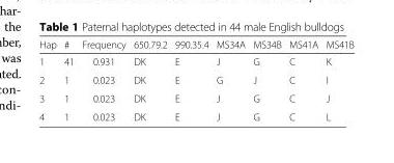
<table><thead><tr><td>Hap</td><td>#</td><td>Frequency</td><td>650.79.2</td><td>990.35.4</td><td>MS34A</td><td>MS34B</td><td>MS41A</td><td>MS41B</td></tr></thead><tbody><tr><td>1</td><td>41</td><td>0.931</td><td>DK</td><td>E</td><td>J</td><td>G</td><td>C</td><td>K</td></tr><tr><td>2</td><td>1</td><td>0.023</td><td>DK</td><td>E</td><td>G</td><td>J</td><td>C</td><td>I</td></tr><tr><td>3</td><td>1</td><td>0.023</td><td>DK</td><td>E</td><td>J</td><td>G</td><td>C</td><td>J</td></tr><tr><td>4</td><td>1</td><td>0.023</td><td>DK</td><td>E</td><td>J</td><td>G</td><td>C</td><td>L</td></tr></tbody></table>